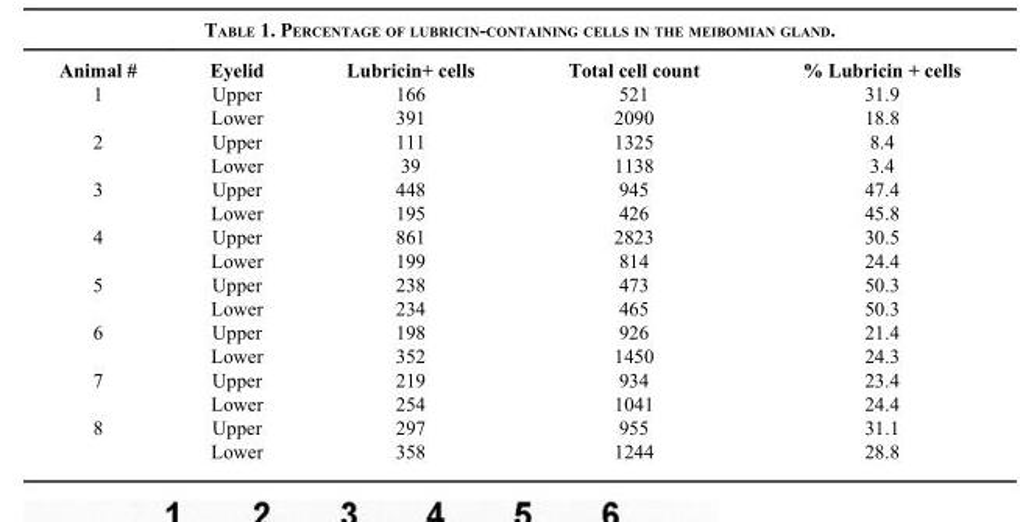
<table><thead><tr><td>Animal #</td><td>Eyelid</td><td>Lubricin+ cells</td><td>Total cell count</td><td>% Lubricin + cells</td></tr></thead><tbody><tr><td rowspan="2">1</td><td>Upper</td><td>166</td><td>521</td><td>31.9</td></tr><tr><td>Lower</td><td>391</td><td>2090</td><td>18.8</td></tr><tr><td rowspan="2">2</td><td>Upper</td><td>111</td><td>1325</td><td>8.4</td></tr><tr><td>Lower</td><td>39</td><td>1138</td><td>3.4</td></tr><tr><td rowspan="2">3</td><td>Upper</td><td>448</td><td>945</td><td>47.4</td></tr><tr><td>Lower</td><td>195</td><td>426</td><td>45.8</td></tr><tr><td rowspan="2">4</td><td>Upper</td><td>861</td><td>2823</td><td>30.5</td></tr><tr><td>Lower</td><td>199</td><td>814</td><td>24.4</td></tr><tr><td rowspan="2">5</td><td>Upper</td><td>238</td><td>473</td><td>50.3</td></tr><tr><td>Lower</td><td>234</td><td>465</td><td>50.3</td></tr><tr><td rowspan="2">6</td><td>Upper</td><td>198</td><td>926</td><td>21.4</td></tr><tr><td>Lower</td><td>352</td><td>1450</td><td>24.3</td></tr><tr><td rowspan="2">7</td><td>Upper</td><td>219</td><td>934</td><td>23.4</td></tr><tr><td>Lower</td><td>254</td><td>1041</td><td>24.4</td></tr><tr><td rowspan="2">8</td><td>Upper</td><td>297</td><td>955</td><td>31.1</td></tr><tr><td>Lower</td><td>358</td><td>1244</td><td>28.8</td></tr></tbody></table>